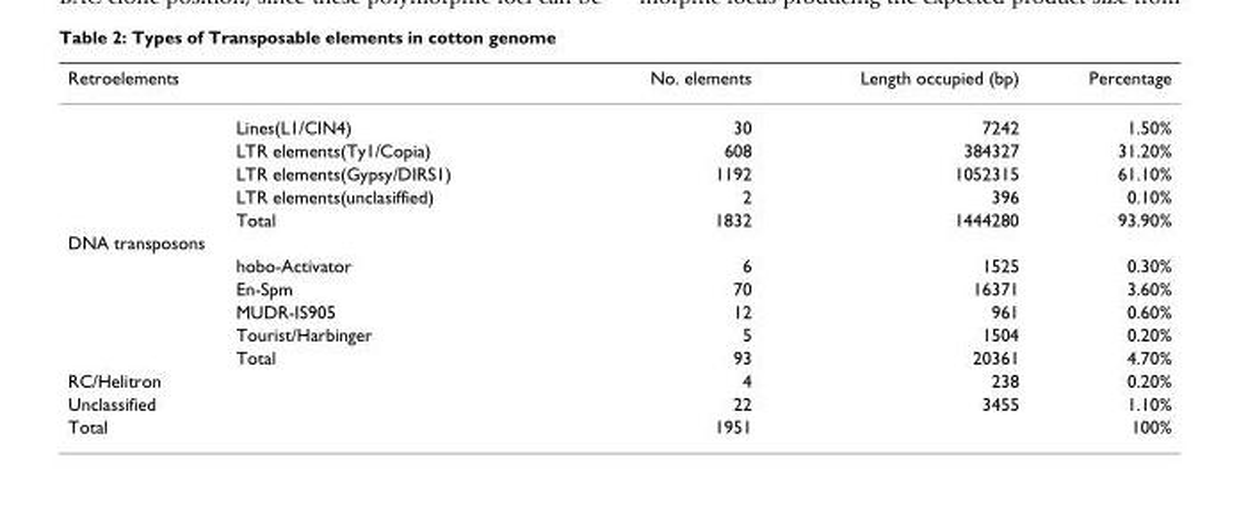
<table><thead><tr><td colspan="2">Retroelements</td><td rowspan="2">No. elements 30</td><td rowspan="2">Length occupied (bp) 7242</td><td rowspan="2">Percentage 1.50%</td></tr><tr><td></td><td>Lines(L1/CIN4)</td></tr></thead><tbody><tr><td></td><td>LTR elements(Ty1/Copia)</td><td>608</td><td>384327</td><td>31.20%</td></tr><tr><td></td><td>LTR elements(Gypsy/DIRS1)</td><td>1192</td><td>1052315</td><td>61.10%</td></tr><tr><td></td><td>LTR elements(unclasiffied)</td><td>2</td><td>396</td><td>0.10%</td></tr><tr><td></td><td>Total</td><td>1832</td><td>1444280</td><td>93.90%</td></tr><tr><td colspan="5">DNA transposons</td></tr><tr><td></td><td>hobo-Activator</td><td>6</td><td>1525</td><td>0.30%</td></tr><tr><td></td><td>En-Spm</td><td>70</td><td>16371</td><td>3.60%</td></tr><tr><td></td><td>MUDR-IS905</td><td>12</td><td>961</td><td>0.60%</td></tr><tr><td></td><td>Tourist/Harbinger</td><td>5</td><td>1504</td><td>0.20%</td></tr><tr><td></td><td>Total</td><td>93</td><td>20361</td><td>4.70%</td></tr><tr><td>RC/Helitron</td><td></td><td>4</td><td>238</td><td>0.20%</td></tr><tr><td>Unclassified</td><td></td><td>22</td><td>3455</td><td>1.10%</td></tr><tr><td>Total</td><td></td><td>1951</td><td></td><td>100%</td></tr></tbody></table>